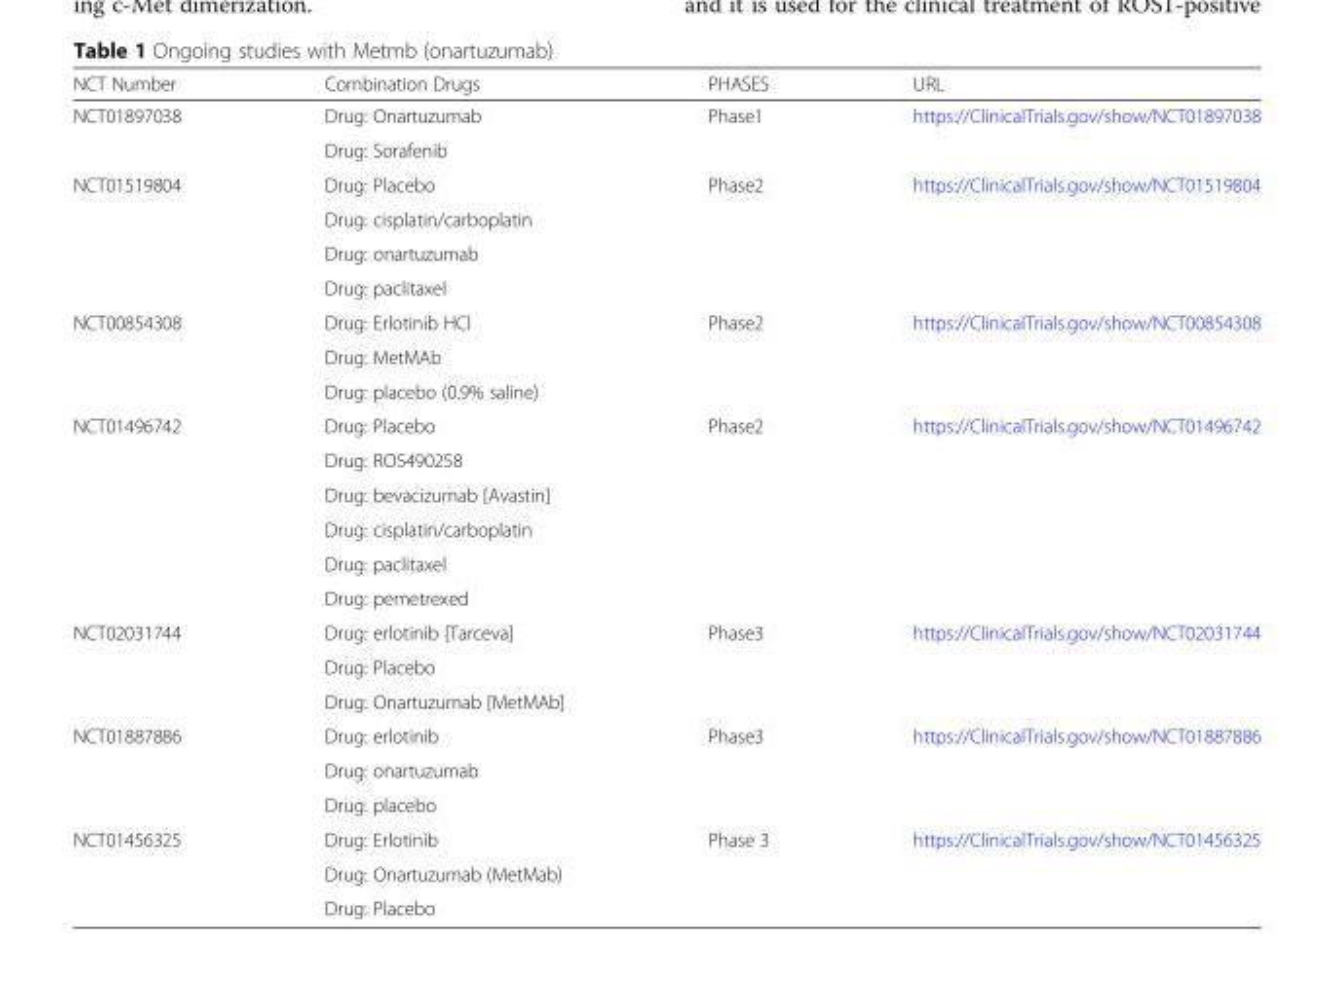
<table><thead><tr><td>NCT Number</td><td>Combination Drugs</td><td>PHASES</td><td>URL</td></tr></thead><tbody><tr><td rowspan="2">NCT01897038</td><td>Drug: Onartuzumab</td><td rowspan="2">Phase1</td><td rowspan="2">https://ClinicalTrials.gov/show/NCT01897038</td></tr><tr><td>Drug: Sorafenib</td></tr><tr><td rowspan="4">NCT01519804</td><td>Drug: Placebo</td><td rowspan="4">Phase2</td><td rowspan="4">https://ClinicalTrials.gov/show/NCT01519804</td></tr><tr><td>Drug: cisplatin/carboplatin</td></tr><tr><td>Drug: onartuzumab</td></tr><tr><td>Drug: paclitaxel</td></tr><tr><td rowspan="3">NCT00854308</td><td>Drug: Erlotinib HCl</td><td rowspan="3">Phase2</td><td rowspan="3">https://ClinicalTrials.gov/show/NCT00854308</td></tr><tr><td>Drug: MetMAb</td></tr><tr><td>Drug: placebo (0.9% saline)</td></tr><tr><td rowspan="6">NCT01496742</td><td>Drug: Placebo</td><td rowspan="6">Phase2</td><td rowspan="6">https://ClinicalTrials.gov/show/NCT01496742</td></tr><tr><td>Drug: RO5490258</td></tr><tr><td>Drug: bevacizumab [Avastin]</td></tr><tr><td>Drug: cisplatin/carboplatin</td></tr><tr><td>Drug: paclitaxel</td></tr><tr><td>Drug: pemetrexed</td></tr><tr><td rowspan="3">NCT02031744</td><td>Drug: erlotinib [Tarceva]</td><td rowspan="3">Phase3</td><td rowspan="3">https://ClinicalTrials.gov/show/NCT02031744</td></tr><tr><td>Drug: Placebo</td></tr><tr><td>Drug: Onartuzumab [MetMAb]</td></tr><tr><td rowspan="3">NCT01887886</td><td>Drug: erlotinib</td><td rowspan="3">Phase3</td><td rowspan="3">https://ClinicalTrials.gov/show/NCT01887886</td></tr><tr><td>Drug: onartuzumab</td></tr><tr><td>Drug: placebo</td></tr><tr><td rowspan="3">NCT01456325</td><td>Drug: Erlotinib</td><td rowspan="3">Phase 3</td><td rowspan="3">https://ClinicalTrials.gov/show/NCT01456325</td></tr><tr><td>Drug: Onartuzumab (MetMab)</td></tr><tr><td>Drug: Placebo</td></tr></tbody></table>